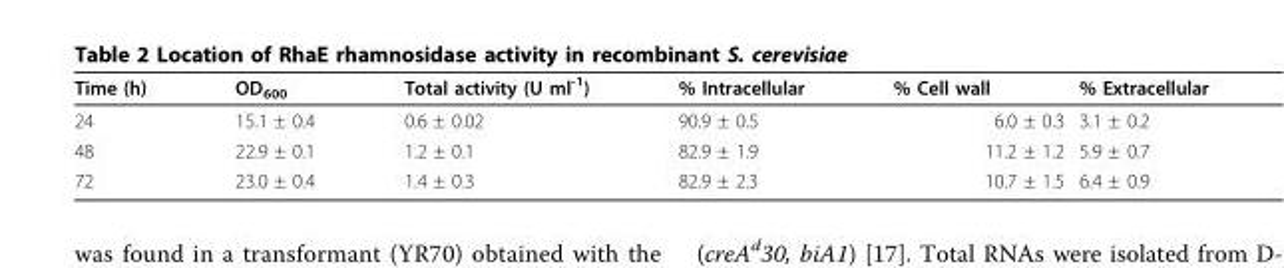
<table><thead><tr><td>Time (h)</td><td>OD<sub>600</sub></td><td>Total activity (U ml<sup>-1</sup>)</td><td>% Intracellular</td><td>% Cell wall</td><td>% Extracellular</td></tr></thead><tbody><tr><td>24</td><td>15.1 ± 0.4</td><td>0.6 ± 0.02</td><td>90.9 ± 0.5</td><td>6.0 ± 0.3</td><td>3.1 ± 0.2</td></tr><tr><td>48</td><td>22.9 ± 0.1</td><td>1.2 ± 0.1</td><td>82.9 ± 1.9</td><td>11.2 ± 1.2</td><td>5.9 ± 0.7</td></tr><tr><td>72</td><td>23.0 ± 0.4</td><td>1.4 ± 0.3</td><td>82.9 ± 2.3</td><td>10.7 ± 1.5</td><td>6.4 ± 0.9</td></tr></tbody></table>